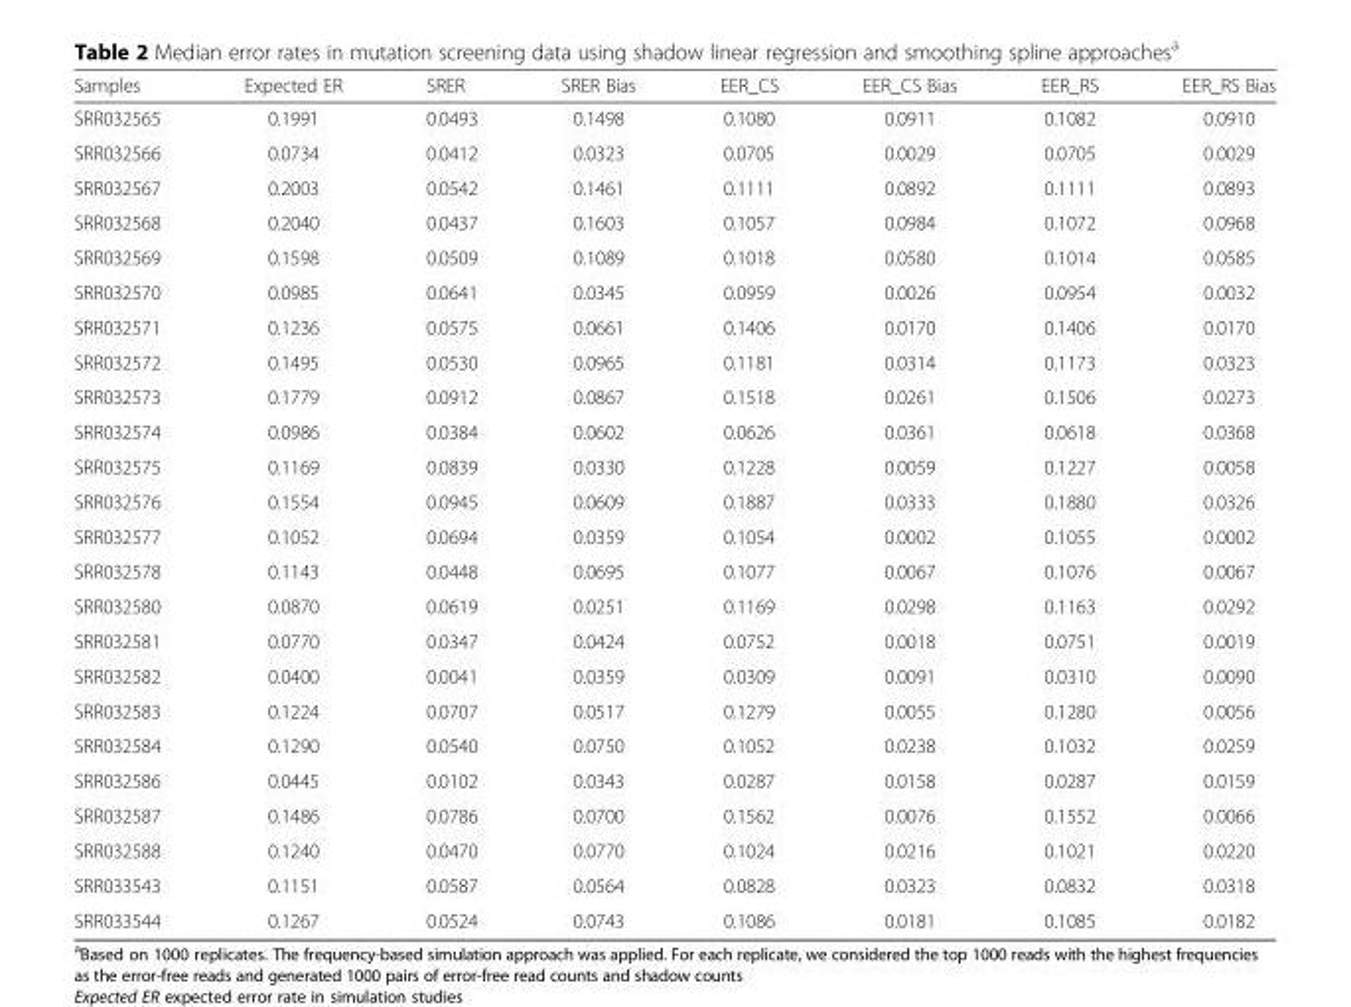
<table><thead><tr><td>Samples</td><td>Expected ER</td><td>SRER</td><td>SRER Bias</td><td>EER_CS</td><td>EER_CS Bias</td><td>EER_RS</td><td>EER_RS Bias</td></tr></thead><tbody><tr><td>SRR032565</td><td>0.1991</td><td>0.0493</td><td>0.1498</td><td>0.1080</td><td>0.0911</td><td>0.1082</td><td>0.0910</td></tr><tr><td>SRR032566</td><td>0.0734</td><td>0.0412</td><td>0.0323</td><td>0.0705</td><td>0.0029</td><td>0.0705</td><td>0.0029</td></tr><tr><td>SRR032567</td><td>0.2003</td><td>0.0542</td><td>0.1461</td><td>0.1111</td><td>0.0892</td><td>0.1111</td><td>0.0893</td></tr><tr><td>SRR032568</td><td>0.2040</td><td>0.0437</td><td>0.1603</td><td>0.1057</td><td>0.0984</td><td>0.1072</td><td>0.0968</td></tr><tr><td>SRR032569</td><td>0.1598</td><td>0.0509</td><td>0.1089</td><td>0.1018</td><td>0.0580</td><td>0.1014</td><td>0.0585</td></tr><tr><td>SRR032570</td><td>0.0985</td><td>0.0641</td><td>0.0345</td><td>0.0959</td><td>0.0026</td><td>0.0954</td><td>0.0032</td></tr><tr><td>SRR032571</td><td>0.1236</td><td>0.0575</td><td>0.0661</td><td>0.1406</td><td>0.0170</td><td>0.1406</td><td>0.0170</td></tr><tr><td>SRR032572</td><td>0.1495</td><td>0.0530</td><td>0.0965</td><td>0.1181</td><td>0.0314</td><td>0.1173</td><td>0.0323</td></tr><tr><td>SRR032573</td><td>0.1779</td><td>0.0912</td><td>0.0867</td><td>0.1518</td><td>0.0261</td><td>0.1506</td><td>0.0273</td></tr><tr><td>SRR032574</td><td>0.0986</td><td>0.0384</td><td>0.0602</td><td>0.0626</td><td>0.0361</td><td>0.0618</td><td>0.0368</td></tr><tr><td>SRR032575</td><td>0.1169</td><td>0.0839</td><td>0.0330</td><td>0.1228</td><td>0.0059</td><td>0.1227</td><td>0.0058</td></tr><tr><td>SRR032576</td><td>0.1554</td><td>0.0945</td><td>0.0609</td><td>0.1887</td><td>0.0333</td><td>0.1880</td><td>0.0326</td></tr><tr><td>SRR032577</td><td>0.1052</td><td>0.0694</td><td>0.0359</td><td>0.1054</td><td>0.0002</td><td>0.1055</td><td>0.0002</td></tr><tr><td>SRR032578</td><td>0.1143</td><td>0.0448</td><td>0.0695</td><td>0.1077</td><td>0.0067</td><td>0.1076</td><td>0.0067</td></tr><tr><td>SRR032580</td><td>0.0870</td><td>0.0619</td><td>0.0251</td><td>0.1169</td><td>0.0298</td><td>0.1163</td><td>0.0292</td></tr><tr><td>SRR032581</td><td>0.0770</td><td>0.0347</td><td>0.0424</td><td>0.0752</td><td>0.0018</td><td>0.0751</td><td>0.0019</td></tr><tr><td>SRR032582</td><td>0.0400</td><td>0.0041</td><td>0.0359</td><td>0.0309</td><td>0.0091</td><td>0.0310</td><td>0.0090</td></tr><tr><td>SRR032583</td><td>0.1224</td><td>0.0707</td><td>0.0517</td><td>0.1279</td><td>0.0055</td><td>0.1280</td><td>0.0056</td></tr><tr><td>SRR032584</td><td>0.1290</td><td>0.0540</td><td>0.0750</td><td>0.1052</td><td>0.0238</td><td>0.1032</td><td>0.0259</td></tr><tr><td>SRR032586</td><td>0.0445</td><td>0.0102</td><td>0.0343</td><td>0.0287</td><td>0.0158</td><td>0.0287</td><td>0.0159</td></tr><tr><td>SRR032587</td><td>0.1486</td><td>0.0786</td><td>0.0700</td><td>0.1562</td><td>0.0076</td><td>0.1552</td><td>0.0066</td></tr><tr><td>SRR032588</td><td>0.1240</td><td>0.0470</td><td>0.0770</td><td>0.1024</td><td>0.0216</td><td>0.1021</td><td>0.0220</td></tr><tr><td>SRR033543</td><td>0.1151</td><td>0.0587</td><td>0.0564</td><td>0.0828</td><td>0.0323</td><td>0.0832</td><td>0.0318</td></tr><tr><td>SRR033544</td><td>0.1267</td><td>0.0524</td><td>0.0743</td><td>0.1086</td><td>0.0181</td><td>0.1085</td><td>0.0182</td></tr></tbody></table>